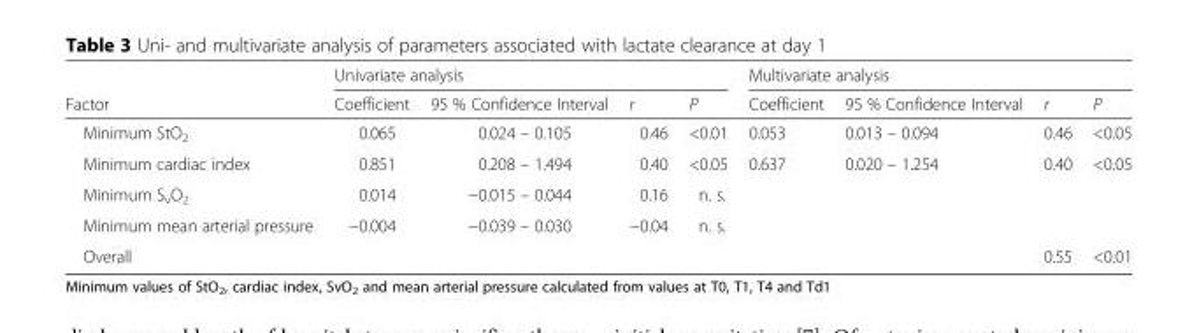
<table><thead><tr><td rowspan="2">Factor</td><td colspan="4">Univariate analysis</td><td colspan="4">Multivariate analysis</td></tr><tr><td>Coefficient</td><td>95 % Confidence Interval</td><td>r</td><td>P</td><td>Coefficient</td><td>95 % Confidence Interval</td><td>r</td><td>P</td></tr></thead><tbody><tr><td>Minimum StO<sub>2</sub></td><td>0.065</td><td>0.024 – 0.105</td><td>0.46</td><td>&lt;0.01</td><td>0.053</td><td>0.013 – 0.094</td><td>0.46</td><td>&lt;0.05</td></tr><tr><td>Minimum cardiac index</td><td>0.851</td><td>0.208 – 1.494</td><td>0.40</td><td>&lt;0.05</td><td>0.637</td><td>0.020 – 1.254</td><td>0.40</td><td>&lt;0.05</td></tr><tr><td>Minimum S<sub>v</sub>O<sub>2</sub></td><td>0.014</td><td>−0.015 – 0.044</td><td>0.16</td><td>n. s.</td><td></td><td></td><td></td><td></td></tr><tr><td>Minimum mean arterial pressure</td><td>−0.004</td><td>−0.039 – 0.030</td><td>−0.04</td><td>n. s.</td><td></td><td></td><td></td><td></td></tr><tr><td>Overall</td><td></td><td></td><td></td><td></td><td></td><td></td><td>0.55</td><td>&lt;0.01</td></tr></tbody></table>